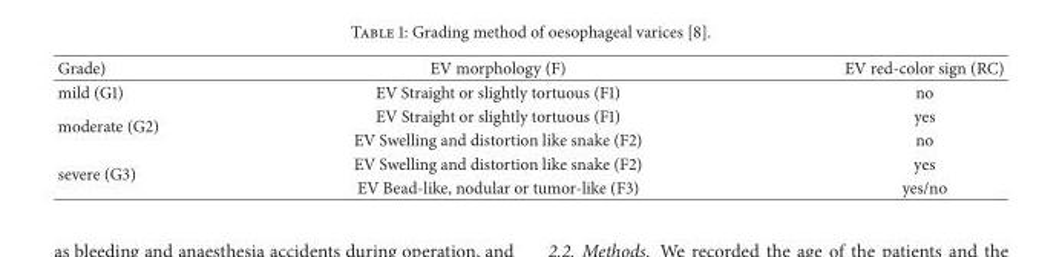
<table><thead><tr><td>Grade)</td><td>EV morphology (F)</td><td>EV red-color sign (RC)</td></tr></thead><tbody><tr><td>mild (G1)</td><td>EV Straight or slightly tortuous (F1)</td><td>no</td></tr><tr><td rowspan="2">moderate (G2)</td><td>EV Straight or slightly tortuous (F1)</td><td>yes</td></tr><tr><td>EV Swelling and distortion like snake (F2)</td><td>no</td></tr><tr><td rowspan="2">severe (G3)</td><td>EV Swelling and distortion like snake (F2)</td><td>yes</td></tr><tr><td>EV Bead-like, nodular or tumor-like (F3)</td><td>yes/no</td></tr></tbody></table>